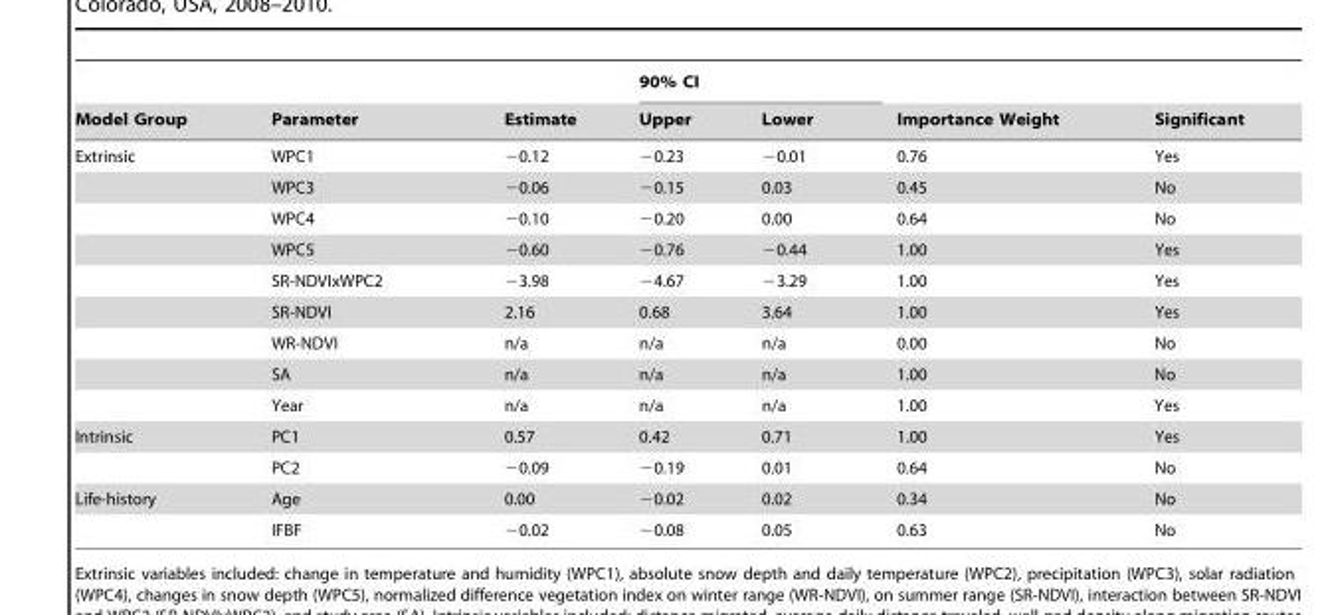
<table><thead><tr><td rowspan="2">Model Group</td><td rowspan="2">Parameter</td><td rowspan="2">Estimate</td><td colspan="2">90% CI</td><td rowspan="2">Importance Weight</td><td rowspan="2">Significant</td></tr><tr><td>Upper</td><td>Lower</td></tr></thead><tbody><tr><td rowspan="9">Extrinsic</td><td>WPC1</td><td>−0.12</td><td>−0.23</td><td>−0.01</td><td>0.76</td><td>Yes</td></tr><tr><td>WPC3</td><td>−0.06</td><td>−0.15</td><td>0.03</td><td>0.45</td><td>No</td></tr><tr><td>WPC4</td><td>−0.10</td><td>−0.20</td><td>0.00</td><td>0.64</td><td>No</td></tr><tr><td>WPC5</td><td>−0.60</td><td>−0.76</td><td>−0.44</td><td>1.00</td><td>Yes</td></tr><tr><td>SR-NDVIxWPC2</td><td>−3.98</td><td>−4.67</td><td>−3.29</td><td>1.00</td><td>Yes</td></tr><tr><td>SR-NDVI</td><td>2.16</td><td>0.68</td><td>3.64</td><td>1.00</td><td>Yes</td></tr><tr><td>WR-NDVI</td><td>n/a</td><td>n/a</td><td>n/a</td><td>0.00</td><td>No</td></tr><tr><td>SA</td><td>n/a</td><td>n/a</td><td>n/a</td><td>1.00</td><td>No</td></tr><tr><td>Year</td><td>n/a</td><td>n/a</td><td>n/a</td><td>1.00</td><td>Yes</td></tr><tr><td rowspan="2">Intrinsic</td><td>PC1</td><td>0.57</td><td>0.42</td><td>0.71</td><td>1.00</td><td>Yes</td></tr><tr><td>PC2</td><td>−0.09</td><td>−0.19</td><td>0.01</td><td>0.64</td><td>No</td></tr><tr><td rowspan="2">Life-history</td><td>Age</td><td>0.00</td><td>−0.02</td><td>0.02</td><td>0.34</td><td>No</td></tr><tr><td>IFBF</td><td>−0.02</td><td>−0.08</td><td>0.05</td><td>0.63</td><td>No</td></tr></tbody></table>